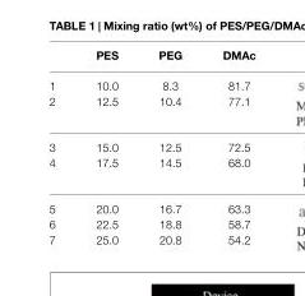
<table><thead><tr><td></td><td>PES</td><td>PEG</td><td>DMAc</td></tr></thead><tbody><tr><td>1</td><td>10.0</td><td>8.3</td><td>81.7</td></tr><tr><td>2</td><td>12.5</td><td>10.4</td><td>77.1</td></tr><tr><td>3</td><td>15.0</td><td>12.5</td><td>72.5</td></tr><tr><td>4</td><td>17.5</td><td>14.5</td><td>68.0</td></tr><tr><td>5</td><td>20.0</td><td>16.7</td><td>63.3</td></tr><tr><td>6</td><td>22.5</td><td>18.8</td><td>58.7</td></tr><tr><td>7</td><td>25.0</td><td>20.8</td><td>54.2</td></tr></tbody></table>